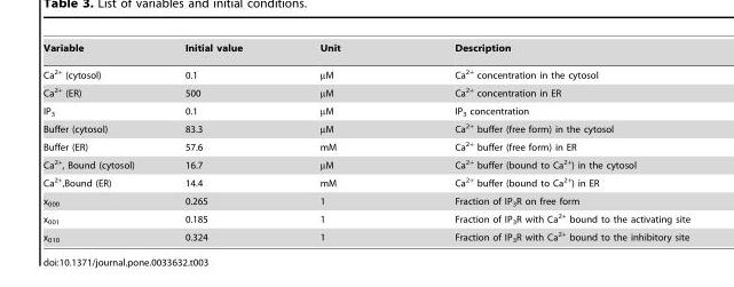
<table><tbody><tr><td>Variable</td><td>Initial value</td><td>Unit</td><td>Description</td></tr><tr><td>Ca<sup>2+</sup> (cytosol)</td><td>0.1</td><td>µM</td><td>Ca<sup>2+</sup> concentration in the cytosol</td></tr><tr><td>Ca<sup>2+</sup> (ER)</td><td>500</td><td>µM</td><td>Ca<sup>2+</sup> concentration in ER</td></tr><tr><td>IP<sub>3</sub></td><td>0.1</td><td>µM</td><td>IP<sub>3</sub> concentration</td></tr><tr><td>Buffer (cytosol)</td><td>83.3</td><td>µM</td><td>Ca<sup>2+</sup> buffer (free form) in the cytosol</td></tr><tr><td>Buffer (ER)</td><td>57.6</td><td>mM</td><td>Ca<sup>2+</sup> buffer (free form) in ER</td></tr><tr><td>Ca<sup>2+</sup>, Bound (cytosol)</td><td>16.7</td><td>µM</td><td>Ca<sup>2+</sup> buffer (bound to Ca<sup>2+</sup>) in the cytosol</td></tr><tr><td>Ca<sup>2+</sup>,Bound (ER)</td><td>14.4</td><td>mM</td><td>Ca<sup>2+</sup> buffer (bound to Ca<sup>2+</sup>) in ER</td></tr><tr><td>x<sub>000</sub></td><td>0.265</td><td>1</td><td>Fraction of IP<sub>3</sub>R on free form</td></tr><tr><td>x<sub>001</sub></td><td>0.185</td><td>1</td><td>Fraction of IP<sub>3</sub>R with Ca<sup>2+</sup> bound to the activating site</td></tr><tr><td>x<sub>010</sub></td><td>0.324</td><td>1</td><td>Fraction of IP<sub>3</sub>R with Ca<sup>2+</sup> bound to the inhibitory site</td></tr></tbody></table>